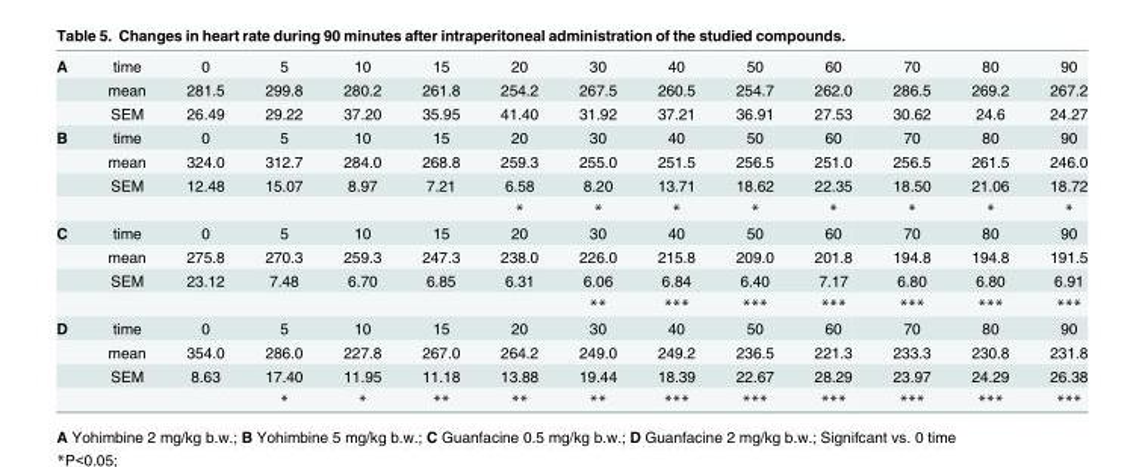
<table><tbody><tr><td rowspan="3">A</td><td>time</td><td>0</td><td>5</td><td>10</td><td>15</td><td>20</td><td>30</td><td>40</td><td>50</td><td>60</td><td>70</td><td>80</td><td>90</td></tr><tr><td>mean</td><td>281.5</td><td>299.8</td><td>280.2</td><td>261.8</td><td>254.2</td><td>267.5</td><td>260.5</td><td>254.7</td><td>262.0</td><td>286.5</td><td>269.2</td><td>267.2</td></tr><tr><td>SEM</td><td>26.49</td><td>29.22</td><td>37.20</td><td>35.95</td><td>41.40</td><td>31.92</td><td>37.21</td><td>36.91</td><td>27.53</td><td>30.62</td><td>24.6</td><td>24.27</td></tr><tr><td rowspan="4">B</td><td>time</td><td>0</td><td>5</td><td>10</td><td>15</td><td>20</td><td>30</td><td>40</td><td>50</td><td>60</td><td>70</td><td>80</td><td>90</td></tr><tr><td>mean</td><td>324.0</td><td>312.7</td><td>284.0</td><td>268.8</td><td>259.3</td><td>255.0</td><td>251.5</td><td>256.5</td><td>251.0</td><td>256.5</td><td>261.5</td><td>246.0</td></tr><tr><td>SEM</td><td>12.48</td><td>15.07</td><td>8.97</td><td>7.21</td><td>6.58</td><td>8.20</td><td>13.71</td><td>18.62</td><td>22.35</td><td>18.50</td><td>21.06</td><td>18.72</td></tr><tr><td></td><td></td><td></td><td></td><td></td><td>*</td><td>*</td><td>*</td><td>*</td><td>*</td><td>*</td><td>*</td><td>*</td></tr><tr><td rowspan="4">C</td><td>time</td><td>0</td><td>5</td><td>10</td><td>15</td><td>20</td><td>30</td><td>40</td><td>50</td><td>60</td><td>70</td><td>80</td><td>90</td></tr><tr><td>mean</td><td>275.8</td><td>270.3</td><td>259.3</td><td>247.3</td><td>238.0</td><td>226.0</td><td>215.8</td><td>209.0</td><td>201.8</td><td>194.8</td><td>194.8</td><td>191.5</td></tr><tr><td>SEM</td><td>23.12</td><td>7.48</td><td>6.70</td><td>6.85</td><td>6.31</td><td>6.06</td><td>6.84</td><td>6.40</td><td>7.17</td><td>6.80</td><td>6.80</td><td>6.91</td></tr><tr><td></td><td></td><td></td><td></td><td></td><td></td><td>**</td><td>***</td><td>***</td><td>***</td><td>***</td><td>***</td><td>***</td></tr><tr><td rowspan="4">D</td><td>time</td><td>0</td><td>5</td><td>10</td><td>15</td><td>20</td><td>30</td><td>40</td><td>50</td><td>60</td><td>70</td><td>80</td><td>90</td></tr><tr><td>mean</td><td>354.0</td><td>286.0</td><td>227.8</td><td>267.0</td><td>264.2</td><td>249.0</td><td>249.2</td><td>236.5</td><td>221.3</td><td>233.3</td><td>230.8</td><td>231.8</td></tr><tr><td>SEM</td><td>8.63</td><td>17.40</td><td>11.95</td><td>11.18</td><td>13.88</td><td>19.44</td><td>18.39</td><td>22.67</td><td>28.29</td><td>23.97</td><td>24.29</td><td>26.38</td></tr><tr><td></td><td></td><td>*</td><td>*</td><td>**</td><td>**</td><td>**</td><td>***</td><td>***</td><td>***</td><td>***</td><td>***</td><td>***</td></tr></tbody></table>